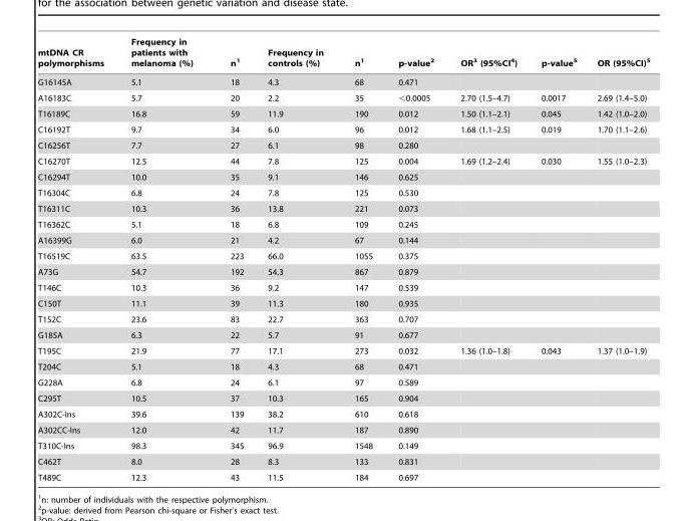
<table><thead><tr><td>mtDNA CR polymorphisms</td><td>Frequency in patients with melanoma (%)</td><td>n<sup>1</sup></td><td>Frequency in controls (%)</td><td>n<sup>1</sup></td><td>p-value<sup>2</sup></td><td>OR<sup>3</sup> (95%CI<sup>4</sup>)</td><td>p-value<sup>5</sup></td><td>OR (95%CI)<sup>5</sup></td></tr></thead><tbody><tr><td>G16145A</td><td>5.1</td><td>18</td><td>4.3</td><td>68</td><td>0.471</td><td></td><td></td><td></td></tr><tr><td>A16183C</td><td>5.7</td><td>20</td><td>2.2</td><td>35</td><td>&lt;0.0005</td><td>2.70 (1.5–4.7)</td><td>0.0017</td><td>2.69 (1.4–5.0)</td></tr><tr><td>T16189C</td><td>16.8</td><td>59</td><td>11.9</td><td>190</td><td>0.012</td><td>1.50 (1.1–2.1)</td><td>0.045</td><td>1.42 (1.0–2.0)</td></tr><tr><td>C16192T</td><td>9.7</td><td>34</td><td>6.0</td><td>96</td><td>0.012</td><td>1.68 (1.1–2.5)</td><td>0.019</td><td>1.70 (1.1–2.6)</td></tr><tr><td>C16256T</td><td>7.7</td><td>27</td><td>6.1</td><td>98</td><td>0.280</td><td></td><td></td><td></td></tr><tr><td>C16270T</td><td>12.5</td><td>44</td><td>7.8</td><td>125</td><td>0.004</td><td>1.69 (1.2–2.4)</td><td>0.030</td><td>1.55 (1.0–2.3)</td></tr><tr><td>C16294T</td><td>10.0</td><td>35</td><td>9.1</td><td>146</td><td>0.625</td><td></td><td></td><td></td></tr><tr><td>T16304C</td><td>6.8</td><td>24</td><td>7.8</td><td>125</td><td>0.530</td><td></td><td></td><td></td></tr><tr><td>T16311C</td><td>10.3</td><td>36</td><td>13.8</td><td>221</td><td>0.073</td><td></td><td></td><td></td></tr><tr><td>T16362C</td><td>5.1</td><td>18</td><td>6.8</td><td>109</td><td>0.245</td><td></td><td></td><td></td></tr><tr><td>A16399G</td><td>6.0</td><td>21</td><td>4.2</td><td>67</td><td>0.144</td><td></td><td></td><td></td></tr><tr><td>T16519C</td><td>63.5</td><td>223</td><td>66.0</td><td>1055</td><td>0.375</td><td></td><td></td><td></td></tr><tr><td>A73G</td><td>54.7</td><td>192</td><td>54.3</td><td>867</td><td>0.879</td><td></td><td></td><td></td></tr><tr><td>T146C</td><td>10.3</td><td>36</td><td>9.2</td><td>147</td><td>0.539</td><td></td><td></td><td></td></tr><tr><td>C150T</td><td>11.1</td><td>39</td><td>11.3</td><td>180</td><td>0.935</td><td></td><td></td><td></td></tr><tr><td>T152C</td><td>23.6</td><td>83</td><td>22.7</td><td>363</td><td>0.707</td><td></td><td></td><td></td></tr><tr><td>G185A</td><td>6.3</td><td>22</td><td>5.7</td><td>91</td><td>0.677</td><td></td><td></td><td></td></tr><tr><td>T195C</td><td>21.9</td><td>77</td><td>17.1</td><td>273</td><td>0.032</td><td>1.36 (1.0–1.8)</td><td>0.043</td><td>1.37 (1.0–1.9)</td></tr><tr><td>T204C</td><td>5.1</td><td>18</td><td>4.3</td><td>68</td><td>0.471</td><td></td><td></td><td></td></tr><tr><td>G228A</td><td>6.8</td><td>24</td><td>6.1</td><td>97</td><td>0.589</td><td></td><td></td><td></td></tr><tr><td>C295T</td><td>10.5</td><td>37</td><td>10.3</td><td>165</td><td>0.904</td><td></td><td></td><td></td></tr><tr><td>A302C-Ins</td><td>39.6</td><td>139</td><td>38.2</td><td>610</td><td>0.618</td><td></td><td></td><td></td></tr><tr><td>A302CC-Ins</td><td>12.0</td><td>42</td><td>11.7</td><td>187</td><td>0.890</td><td></td><td></td><td></td></tr><tr><td>T310C-Ins</td><td>98.3</td><td>345</td><td>96.9</td><td>1548</td><td>0.149</td><td></td><td></td><td></td></tr><tr><td>C462T</td><td>8.0</td><td>28</td><td>8.3</td><td>133</td><td>0.831</td><td></td><td></td><td></td></tr><tr><td>T489C</td><td>12.3</td><td>43</td><td>11.5</td><td>184</td><td>0.697</td><td></td><td></td><td></td></tr></tbody></table>